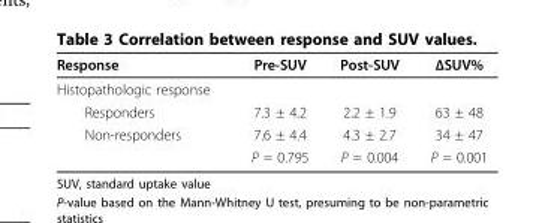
<table><thead><tr><td>Response</td><td>Pre-SUV</td><td>Post-SUV</td><td>ΔSUV%</td></tr></thead><tbody><tr><td colspan="4">Histopathologic response</td></tr><tr><td>Responders</td><td>7.3 ± 4.2</td><td>2.2 ± 1.9</td><td>63 ± 48</td></tr><tr><td rowspan="2">Non-responders</td><td>7.6 ± 4.4</td><td>4.3 ± 2.7</td><td>34 ± 47</td></tr><tr><td>P = 0.795</td><td>P = 0.004</td><td>P = 0.001</td></tr></tbody></table>